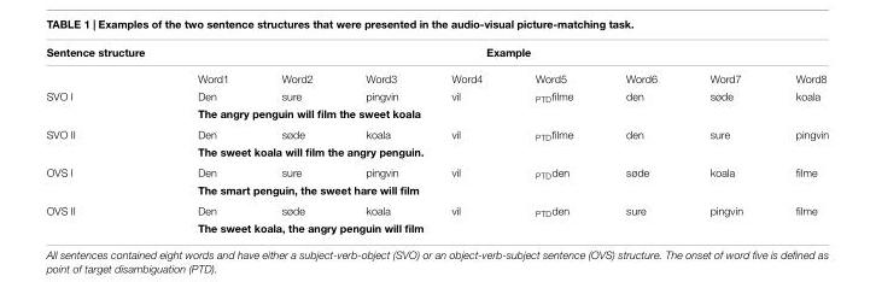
<table><thead><tr><td rowspan="2">Sentence structure</td><td colspan="8">Example</td></tr><tr><td>Word1</td><td>Word2</td><td>Word3</td><td>Word4</td><td>Word5</td><td>Word6</td><td>Word7</td><td>Word8</td></tr></thead><tbody><tr><td rowspan="2">SVO I</td><td>Den</td><td>sure</td><td>pingvin</td><td>vil</td><td><sub>PTD</sub>filme</td><td>den</td><td>søde</td><td>koala</td></tr><tr><td colspan="8">The angry penguin will film the sweet koala</td></tr><tr><td rowspan="2">SVO II</td><td>Den</td><td>søde</td><td>koala</td><td>vil</td><td><sub>PTD</sub>filme</td><td>den</td><td>sure</td><td>pingvin</td></tr><tr><td colspan="8">The sweet koala will film the angry penguin.</td></tr><tr><td rowspan="2">OVS I</td><td>Den</td><td>sure</td><td>pingvin</td><td>vil</td><td><sub>PTD</sub>den</td><td>søde</td><td>koala</td><td>filme</td></tr><tr><td colspan="8">The smart penguin, the sweet hare will film</td></tr><tr><td rowspan="2">OVS II</td><td>Den</td><td>søde</td><td>koala</td><td>vil</td><td><sub>PTD</sub>den</td><td>sure</td><td>pingvin</td><td>filme</td></tr><tr><td colspan="8">The sweet koala, the angry penguin will film</td></tr></tbody></table>